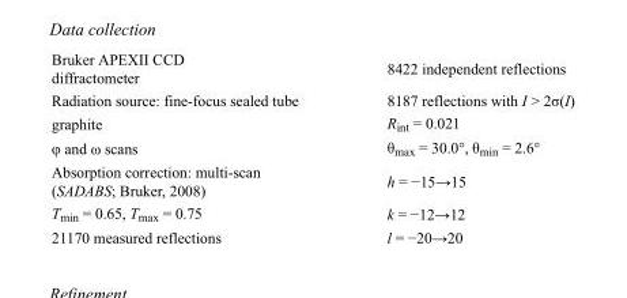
<table><tbody><tr><td>Bruker APEXII CCD diffractometer</td><td>8422 independent reflections</td></tr><tr><td>Radiation source: fine-focus sealed tube</td><td>8187 reflections with I &gt; 2σ(I)</td></tr><tr><td>graphite</td><td>R<sub>int</sub> = 0.021</td></tr><tr><td>φ and ω scans</td><td>θ<sub>max</sub> = 30.0°, θ<sub>min</sub> = 2.6°</td></tr><tr><td>Absorption correction: multi-scan (SADABS; Bruker, 2008)</td><td>h = −15→15</td></tr><tr><td>T<sub>min</sub> = 0.65, T<sub>max</sub> = 0.75</td><td>k = −12→12</td></tr><tr><td>21170 measured reflections</td><td>l = −20→20</td></tr></tbody></table>